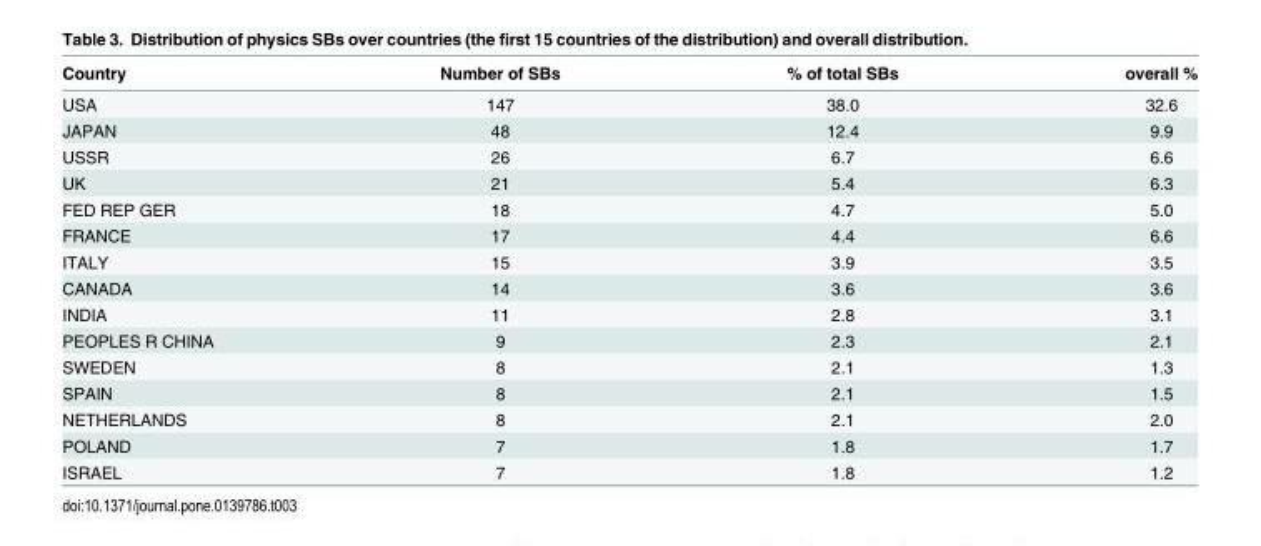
<table><thead><tr><td>Country</td><td>Number of SBs</td><td>% of total SBs</td><td>overall %</td></tr></thead><tbody><tr><td>USA</td><td>147</td><td>38.0</td><td>32.6</td></tr><tr><td>JAPAN</td><td>48</td><td>12.4</td><td>9.9</td></tr><tr><td>USSR</td><td>26</td><td>6.7</td><td>6.6</td></tr><tr><td>UK</td><td>21</td><td>5.4</td><td>6.3</td></tr><tr><td>FED REP GER</td><td>18</td><td>4.7</td><td>5.0</td></tr><tr><td>FRANCE</td><td>17</td><td>4.4</td><td>6.6</td></tr><tr><td>ITALY</td><td>15</td><td>3.9</td><td>3.5</td></tr><tr><td>CANADA</td><td>14</td><td>3.6</td><td>3.6</td></tr><tr><td>INDIA</td><td>11</td><td>2.8</td><td>3.1</td></tr><tr><td>PEOPLES R CHINA</td><td>9</td><td>2.3</td><td>2.1</td></tr><tr><td>SWEDEN</td><td>8</td><td>2.1</td><td>1.3</td></tr><tr><td>SPAIN</td><td>8</td><td>2.1</td><td>1.5</td></tr><tr><td>NETHERLANDS</td><td>8</td><td>2.1</td><td>2.0</td></tr><tr><td>POLAND</td><td>7</td><td>1.8</td><td>1.7</td></tr><tr><td>ISRAEL</td><td>7</td><td>1.8</td><td>1.2</td></tr></tbody></table>